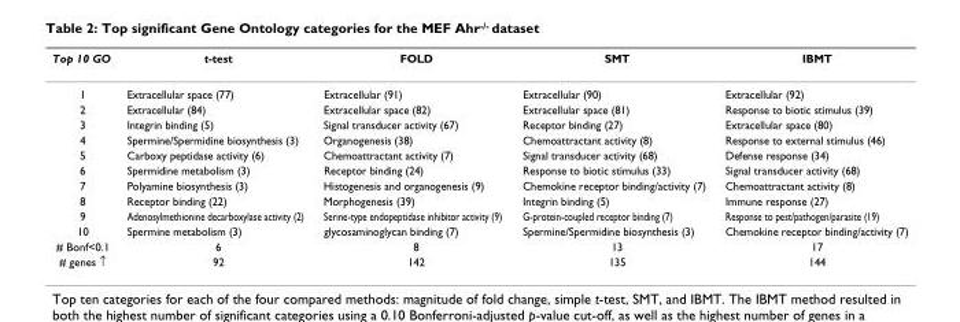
<table><thead><tr><td>Top 10 GO</td><td>t-test</td><td>FOLD</td><td>SMT</td><td>IBMT</td></tr></thead><tbody><tr><td>1</td><td>Extracellular space (77)</td><td>Extracellular (91)</td><td>Extracellular (90)</td><td>Extracellular (92)</td></tr><tr><td>2</td><td>Extracellular (84)</td><td>Extracellular space (82)</td><td>Extracellular space (81)</td><td>Response to biotic stimulus (39)</td></tr><tr><td>3</td><td>Integrin binding (5)</td><td>Signal transducer activity (67)</td><td>Receptor binding (27)</td><td>Extracellular space (80)</td></tr><tr><td>4</td><td>Spermine/Spermidine biosynthesis (3)</td><td>Organogenesis (38)</td><td>Chemoattractant activity (8)</td><td>Response to external stimulus (46)</td></tr><tr><td>5</td><td>Carboxy peptidase activity (6)</td><td>Chemoattractant activity (7)</td><td>Signal transducer activity (68)</td><td>Defense response (34)</td></tr><tr><td>6</td><td>Spermidine metabolism (3)</td><td>Receptor binding (24)</td><td>Response to biotic stimulus (33)</td><td>Signal transducer activity (68)</td></tr><tr><td>7</td><td>Polyamine biosynthesis (3)</td><td>Histogenesis and organogenesis (9)</td><td>Chemokine receptor binding/activity (7)</td><td>Chemoattractant activity (8)</td></tr><tr><td>8</td><td>Receptor binding (22)</td><td>Morphogenesis (39)</td><td>Integrin binding (5)</td><td>Immune response (27)</td></tr><tr><td>9</td><td>Adenosylmethionine decarboxylase activity (2)</td><td>Serine-type endopeptidase inhibitor activity (9)</td><td>G-protein-coupled receptor binding (7)</td><td>Response to pest/pathogen/parasite (19)</td></tr><tr><td>10</td><td>Spermine metabolism (3)</td><td>glycosaminoglycan binding (7)</td><td>Spermine/Spermidine biosynthesis (3)</td><td>Chemokine receptor binding/activity (7)</td></tr><tr><td># Bonf&lt;0.1</td><td>6</td><td>8</td><td>13</td><td>17</td></tr><tr><td># genes ↑</td><td>92</td><td>142</td><td>135</td><td>144</td></tr></tbody></table>